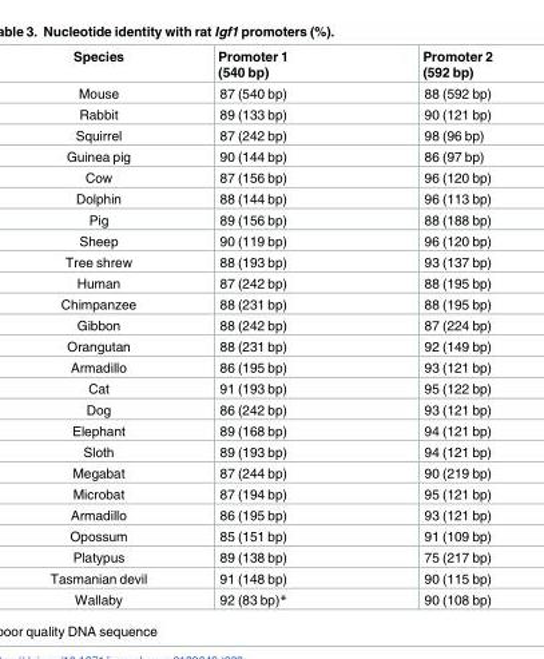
<table><thead><tr><td>Species</td><td>Promoter 1 (540 bp)</td><td>Promoter 2 (592 bp)</td></tr></thead><tbody><tr><td>Mouse</td><td>87 (540 bp)</td><td>88 (592 bp)</td></tr><tr><td>Rabbit</td><td>89 (133 bp)</td><td>90 (121 bp)</td></tr><tr><td>Squirrel</td><td>87 (242 bp)</td><td>98 (96 bp)</td></tr><tr><td>Guinea pig</td><td>90 (144 bp)</td><td>86 (97 bp)</td></tr><tr><td>Cow</td><td>87 (156 bp)</td><td>96 (120 bp)</td></tr><tr><td>Dolphin</td><td>88 (144 bp)</td><td>96 (113 bp)</td></tr><tr><td>Pig</td><td>89 (156 bp)</td><td>88 (188 bp)</td></tr><tr><td>Sheep</td><td>90 (119 bp)</td><td>96 (120 bp)</td></tr><tr><td>Tree shrew</td><td>88 (193 bp)</td><td>93 (137 bp)</td></tr><tr><td>Human</td><td>87 (242 bp)</td><td>88 (195 bp)</td></tr><tr><td>Chimpanzee</td><td>88 (231 bp)</td><td>88 (195 bp)</td></tr><tr><td>Gibbon</td><td>88 (242 bp)</td><td>87 (224 bp)</td></tr><tr><td>Orangutan</td><td>88 (231 bp)</td><td>92 (149 bp)</td></tr><tr><td>Armadillo</td><td>86 (195 bp)</td><td>93 (121 bp)</td></tr><tr><td>Cat</td><td>91 (193 bp)</td><td>95 (122 bp)</td></tr><tr><td>Dog</td><td>86 (242 bp)</td><td>93 (121 bp)</td></tr><tr><td>Elephant</td><td>89 (168 bp)</td><td>94 (121 bp)</td></tr><tr><td>Sloth</td><td>89 (193 bp)</td><td>94 (121 bp)</td></tr><tr><td>Megabat</td><td>87 (244 bp)</td><td>90 (219 bp)</td></tr><tr><td>Microbat</td><td>87 (194 bp)</td><td>95 (121 bp)</td></tr><tr><td>Armadillo</td><td>86 (195 bp)</td><td>93 (121 bp)</td></tr><tr><td>Opossum</td><td>85 (151 bp)</td><td>91 (109 bp)</td></tr><tr><td>Platypus</td><td>89 (138 bp)</td><td>75 (217 bp)</td></tr><tr><td>Tasmanian devil</td><td>91 (148 bp)</td><td>90 (115 bp)</td></tr><tr><td>Wallaby</td><td>92 (83 bp)*</td><td>90 (108 bp)</td></tr></tbody></table>